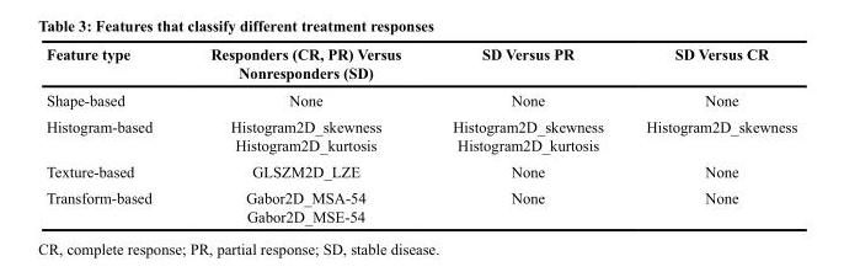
<table><thead><tr><td>Feature type</td><td>Responders (CR, PR) Versus Nonresponders (SD)</td><td>SD Versus PR</td><td>SD Versus CR</td></tr></thead><tbody><tr><td>Shape-based</td><td>None</td><td>None</td><td>None</td></tr><tr><td>Histogram-based</td><td>Histogram2D_skewness Histogram2D_kurtosis</td><td>Histogram2D_skewness Histogram2D_kurtosis</td><td>Histogram2D_skewness</td></tr><tr><td>Texture-based</td><td>GLSZM2D_LZE</td><td>None</td><td>None</td></tr><tr><td>Transform-based</td><td>Gabor2D_MSA-54 Gabor2D_MSE-54</td><td>None</td><td>None</td></tr></tbody></table>